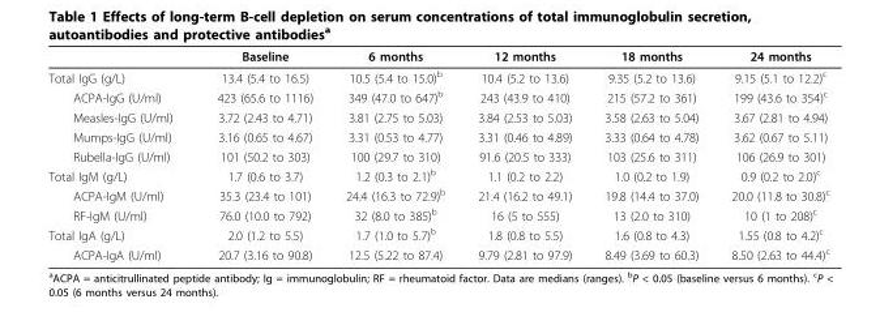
<table><thead><tr><td></td><td>Baseline</td><td>6 months</td><td>12 months</td><td>18 months</td><td>24 months</td></tr></thead><tbody><tr><td>Total IgG (g/L)</td><td>13.4 (5.4 to 16.5)</td><td>10.5 (5.4 to 15.0)<sup>b</sup></td><td>10.4 (5.2 to 13.6)</td><td>9.35 (5.2 to 13.6)</td><td>9.15 (5.1 to 12.2)<sup>c</sup></td></tr><tr><td>ACPA-IgG (U/ml)</td><td>423 (65.6 to 1116)</td><td>349 (47.0 to 647)<sup>b</sup></td><td>243 (43.9 to 410)</td><td>215 (57.2 to 361)</td><td>199 (43.6 to 354)<sup>c</sup></td></tr><tr><td>Measles-IgG (U/ml)</td><td>3.72 (2.43 to 4.71)</td><td>3.81 (2.75 to 5.03)</td><td>3.84 (2.53 to 5.03)</td><td>3.58 (2.63 to 5.04)</td><td>3.67 (2.81 to 4.94)</td></tr><tr><td>Mumps-IgG (U/ml)</td><td>3.16 (0.65 to 4.67)</td><td>3.31 (0.53 to 4.77)</td><td>3.31 (0.46 to 4.89)</td><td>3.33 (0.64 to 4.78)</td><td>3.62 (0.67 to 5.11)</td></tr><tr><td>Rubella-IgG (U/ml)</td><td>101 (50.2 to 303)</td><td>100 (29.7 to 310)</td><td>91.6 (20.5 to 333)</td><td>103 (25.6 to 311)</td><td>106 (26.9 to 301)</td></tr><tr><td>Total IgM (g/L)</td><td>1.7 (0.6 to 3.7)</td><td>1.2 (0.3 to 2.1)<sup>b</sup></td><td>1.1 (0.2 to 2.2)</td><td>1.0 (0.2 to 1.9)</td><td>0.9 (0.2 to 2.0)<sup>c</sup></td></tr><tr><td>ACPA-IgM (U/ml)</td><td>35.3 (23.4 to 101)</td><td>24.4 (16.3 to 72.9)<sup>b</sup></td><td>21.4 (16.2 to 49.1)</td><td>19.8 (14.4 to 37.0)</td><td>20.0 (11.8 to 30.8)<sup>c</sup></td></tr><tr><td>RF-IgM (U/ml)</td><td>76.0 (10.0 to 792)</td><td>32 (8.0 to 385)<sup>b</sup></td><td>16 (5 to 555)</td><td>13 (2.0 to 310)</td><td>10 (1 to 208)<sup>c</sup></td></tr><tr><td>Total IgA (g/L)</td><td>2.0 (1.2 to 5.5)</td><td>1.7 (1.0 to 5.7)<sup>b</sup></td><td>1.8 (0.8 to 5.5)</td><td>1.6 (0.8 to 4.3)</td><td>1.55 (0.8 to 4.2)<sup>c</sup></td></tr><tr><td>ACPA-IgA (U/ml)</td><td>20.7 (3.16 to 90.8)</td><td>12.5 (5.22 to 87.4)</td><td>9.79 (2.81 to 97.9)</td><td>8.49 (3.69 to 60.3)</td><td>8.50 (2.63 to 44.4)<sup>c</sup></td></tr></tbody></table>